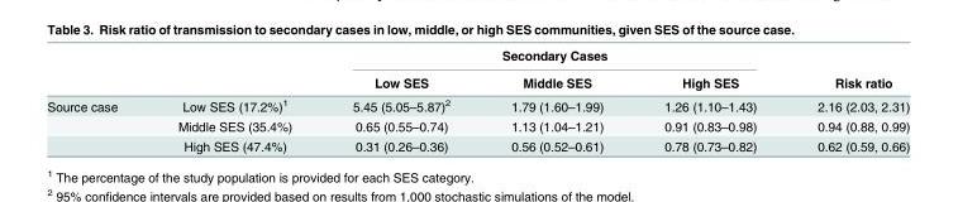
<table><thead><tr><td rowspan="2"></td><td rowspan="2"></td><td colspan="3">Secondary Cases</td><td rowspan="2">Risk ratio</td></tr><tr><td>Low SES</td><td>Middle SES</td><td>High SES</td></tr></thead><tbody><tr><td rowspan="3">Source case</td><td>Low SES (17.2%)<sup>1</sup></td><td>5.45 (5.05–5.87)<sup>2</sup></td><td>1.79 (1.60–1.99)</td><td>1.26 (1.10–1.43)</td><td>2.16 (2.03, 2.31)</td></tr><tr><td>Middle SES (35.4%)</td><td>0.65 (0.55–0.74)</td><td>1.13 (1.04–1.21)</td><td>0.91 (0.83–0.98)</td><td>0.94 (0.88, 0.99)</td></tr><tr><td>High SES (47.4%)</td><td>0.31 (0.26–0.36)</td><td>0.56 (0.52–0.61)</td><td>0.78 (0.73–0.82)</td><td>0.62 (0.59, 0.66)</td></tr></tbody></table>